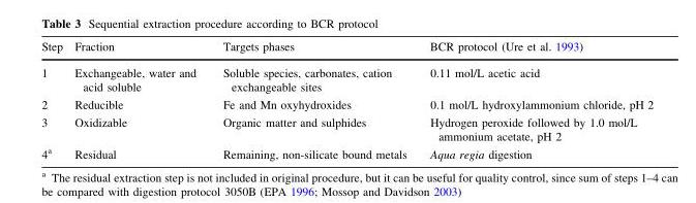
<table><thead><tr><td>Step</td><td>Fraction</td><td>Targets phases</td><td>BCR protocol (Ure et al. 1993)</td></tr></thead><tbody><tr><td>1</td><td>Exchangeable, water and acid soluble</td><td>Soluble species, carbonates, cation exchangeable sites</td><td>0.11 mol/L acetic acid</td></tr><tr><td>2</td><td>Reducible</td><td>Fe and Mn oxyhydroxides</td><td>0.1 mol/L hydroxylammonium chloride, pH 2</td></tr><tr><td>3</td><td>Oxidizable</td><td>Organic matter and sulphides</td><td>Hydrogen peroxide followed by 1.0 mol/L ammonium acetate, pH 2</td></tr><tr><td>4<sup>a</sup></td><td>Residual</td><td>Remaining, non-silicate bound metals</td><td>Aqua regia digestion</td></tr></tbody></table>